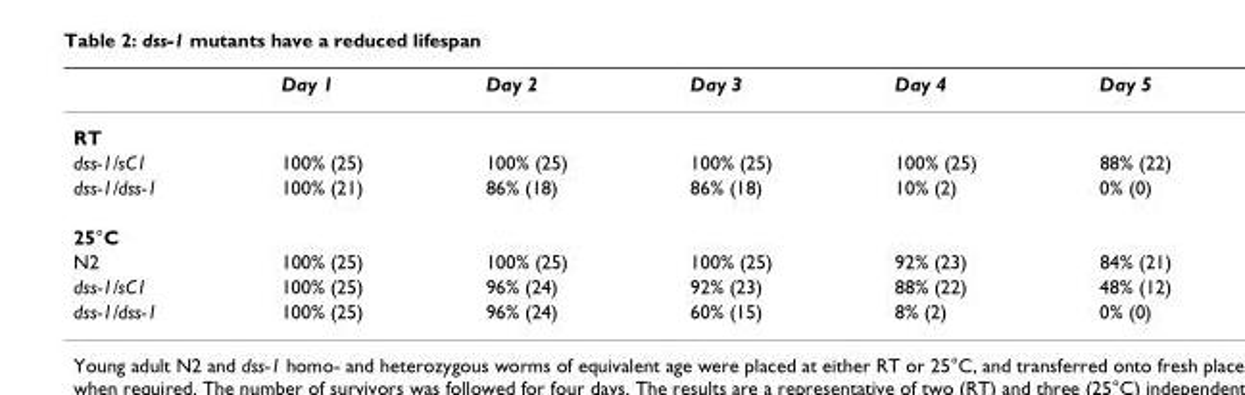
<table><thead><tr><td></td><td>Day 1</td><td>Day 2</td><td>Day 3</td><td>Day 4</td><td>Day 5</td></tr></thead><tbody><tr><td colspan="6">RT</td></tr><tr><td>dss-1/sC1</td><td>100% (25)</td><td>100% (25)</td><td>100% (25)</td><td>100% (25)</td><td>88% (22)</td></tr><tr><td>dss-1/dss-1</td><td>100% (21)</td><td>86% (18)</td><td>86% (18)</td><td>10% (2)</td><td>0% (0)</td></tr><tr><td colspan="6">25°C</td></tr><tr><td>N2</td><td>100% (25)</td><td>100% (25)</td><td>100% (25)</td><td>92% (23)</td><td>84% (21)</td></tr><tr><td>dss-1/sC1</td><td>100% (25)</td><td>96% (24)</td><td>92% (23)</td><td>88% (22)</td><td>48% (12)</td></tr><tr><td>dss-1/dss-1</td><td>100% (25)</td><td>96% (24)</td><td>60% (15)</td><td>8% (2)</td><td>0% (0)</td></tr></tbody></table>